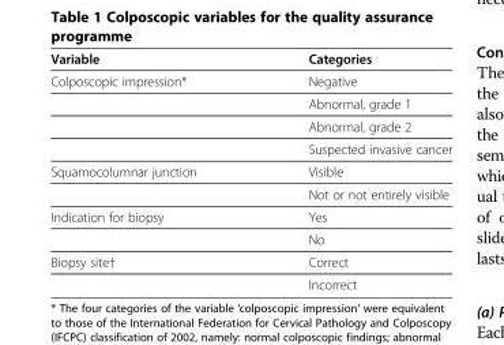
<table><thead><tr><td>Variable</td><td>Categories</td></tr></thead><tbody><tr><td rowspan="4">Colposcopic impression*</td><td>Negative</td></tr><tr><td>Abnormal, grade 1</td></tr><tr><td>Abnormal, grade 2</td></tr><tr><td>Suspected invasive cancer</td></tr><tr><td rowspan="2">Squamocolumnar junction</td><td>Visible</td></tr><tr><td>Not or not entirely visible</td></tr><tr><td rowspan="2">Indication for biopsy</td><td>Yes</td></tr><tr><td>No</td></tr><tr><td rowspan="2">Biopsy site†</td><td>Correct</td></tr><tr><td>Incorrect</td></tr></tbody></table>